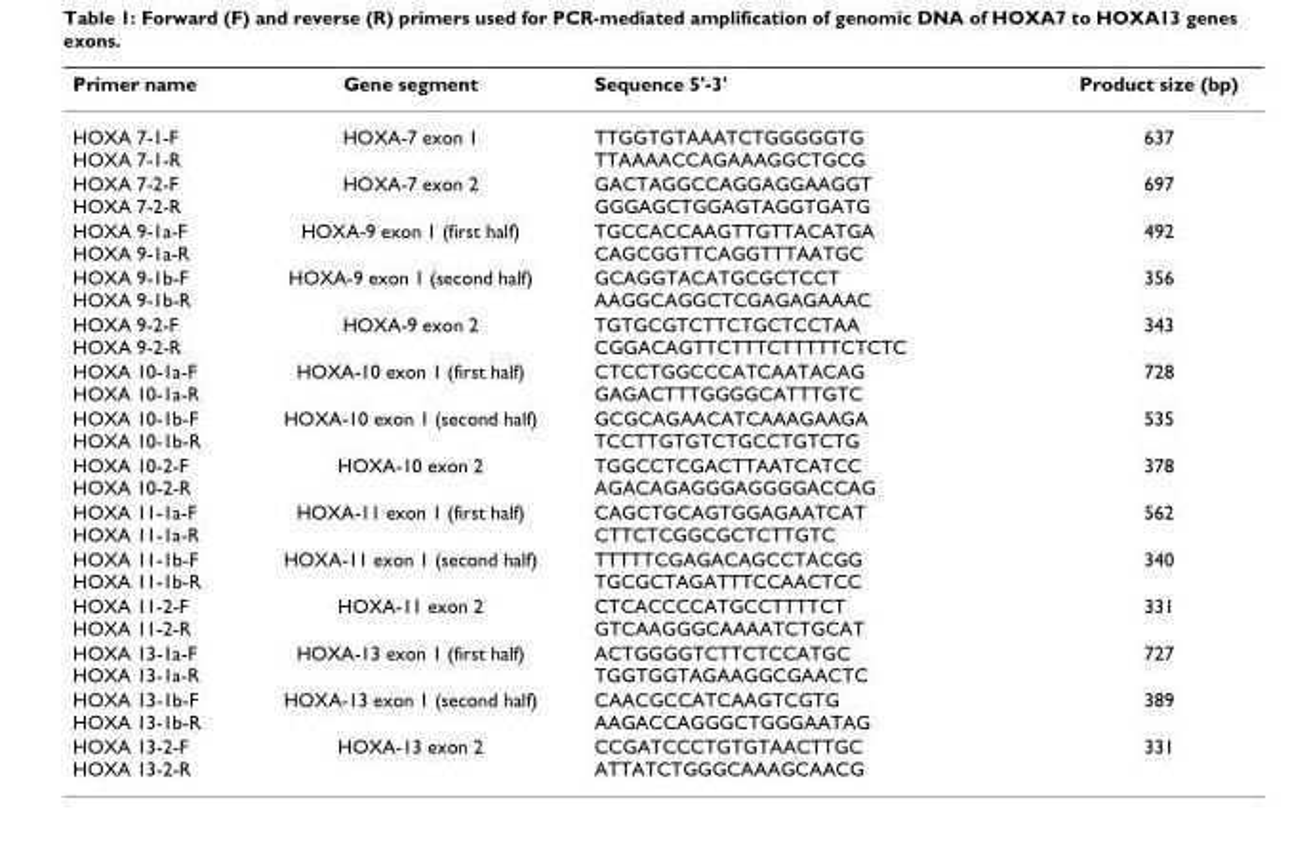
<table><thead><tr><td>Primer name</td><td>Gene segment</td><td>Sequence 5&#x27;-3&#x27;</td><td>Product size (bp)</td></tr></thead><tbody><tr><td>HOXA 7-1-F HOXA 7-1-R</td><td>HOXA-7 exon 1</td><td>TTGGTGTAAATCTGGGGGTG TTAAAACCAGAAAGGCTGCG</td><td>637</td></tr><tr><td>HOXA 7-2-F HOXA 7-2-R</td><td>HOXA-7 exon 2</td><td>GACTAGGCCAGGAGGAAGGT GGGAGCTGGAGTAGGTGATG</td><td>697</td></tr><tr><td>HOXA 9-1a-F HOXA 9-1a-R</td><td>HOXA-9 exon 1 (first half)</td><td>TGCCACCAAGTTGTTACATGA CAGCGGTTCAGGTTTAATGC</td><td>492</td></tr><tr><td>HOXA 9-1b-F HOXA 9-1b-R</td><td>HOXA-9 exon 1 (second half)</td><td>GCAGGTACATGCGCTCCT AAGGCAGGCTCGAGAGAAAC</td><td>356</td></tr><tr><td>HOXA 9-2-F HOXA 9-2-R</td><td>HOXA-9 exon 2</td><td>TGTGCGTCTTCTGCTCCTAA CGGACAGTTCTTTCTTTTTCTCTC</td><td>343</td></tr><tr><td>HOXA 10-1a-F HOXA 10-1a-R</td><td>HOXA-10 exon 1 (first half)</td><td>CTCCTGGCCCATCAATACAG GAGACTTTGGGGCATTTGTC</td><td>728</td></tr><tr><td>HOXA 10-1b-F HOXA 10-1b-R</td><td>HOXA-10 exon 1 (second half)</td><td>GCGCAGAACATCAAAGAAGA TCCTTGTGTCTGCCTGTCTG</td><td>535</td></tr><tr><td>HOXA 10-2-F HOXA 10-2-R</td><td>HOXA-10 exon 2</td><td>TGGCCTCGACTTAATCATCC AGACAGAGGGAGGGGACCAG</td><td>378</td></tr><tr><td>HOXA 11-1a-F HOXA 11-1a-R</td><td>HOXA-11 exon 1 (first half)</td><td>CAGCTGCAGTGGAGAATCAT CTTCTCGGCGCTCTTGTC</td><td>562</td></tr><tr><td>HOXA 11-1b-F HOXA 11-1b-R</td><td>HOXA-11 exon 1 (second half)</td><td>TTTTTCGAGACAGCCTACGG TGCGCTAGATTTCCAACTCC</td><td>340</td></tr><tr><td>HOXA 11-2-F HOXA 11-2-R</td><td>HOXA-11 exon 2</td><td>CTCACCCCATGCCTTTTCT GTCAAGGGCAAAATCTGCAT</td><td>331</td></tr><tr><td>HOXA 13-1a-F HOXA 13-1a-R</td><td>HOXA-13 exon 1 (first half)</td><td>ACTGGGGTCTTCTCCATGC TGGTGGTAGAAGGCGAACTC</td><td>727</td></tr><tr><td>HOXA 13-1b-F HOXA 13-1b-R</td><td>HOXA-13 exon 1 (second half)</td><td>CAACGCCATCAAGTCGTG AAGACCAGGGCTGGGAATAG</td><td>389</td></tr><tr><td>HOXA 13-2-F HOXA 13-2-R</td><td>HOXA-13 exon 2</td><td>CCGATCCCTGTGTAACTTGC ATTATCTGGGCAAAGCAACG</td><td>331</td></tr></tbody></table>